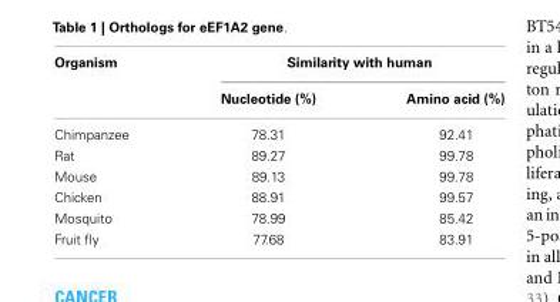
<table><thead><tr><td rowspan="2">Organism</td><td colspan="2">Similarity with human</td></tr><tr><td>Nucleotide (%)</td><td>Amino acid (%)</td></tr></thead><tbody><tr><td>Chimpanzee</td><td>78.31</td><td>92.41</td></tr><tr><td>Rat</td><td>89.27</td><td>99.78</td></tr><tr><td>Mouse</td><td>89.13</td><td>99.78</td></tr><tr><td>Chicken</td><td>88.91</td><td>99.57</td></tr><tr><td>Mosquito</td><td>78.99</td><td>85.42</td></tr><tr><td>Fruit fly</td><td>77.68</td><td>83.91</td></tr></tbody></table>